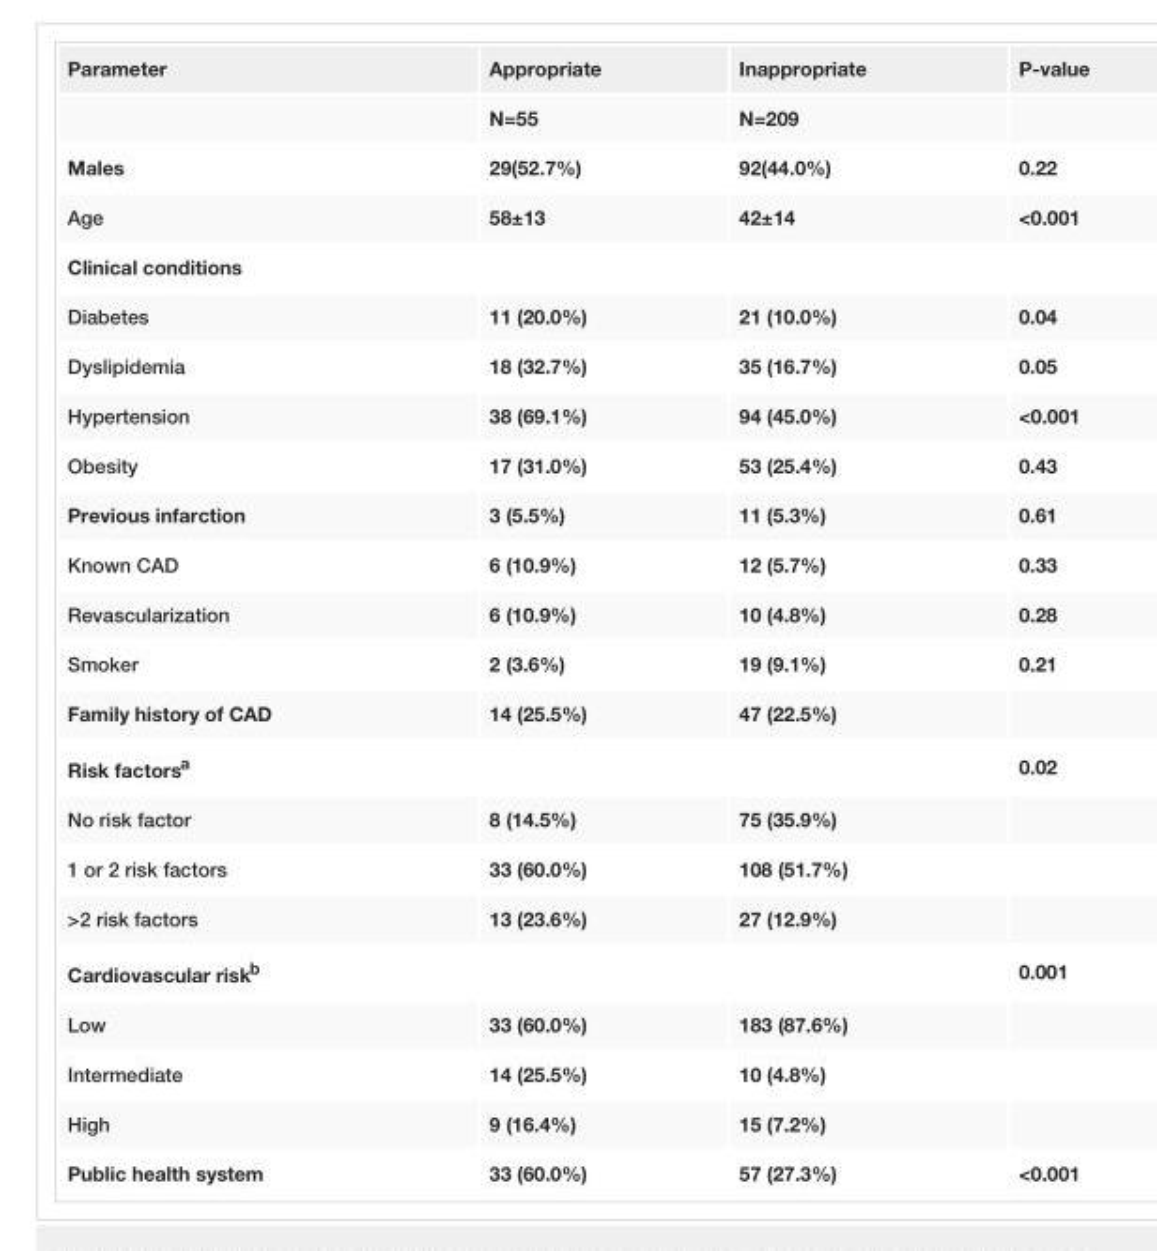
<table><tbody><tr><td rowspan="2">Parameter</td><td>Appropriate</td><td>Inappropriate</td><td>P-value</td></tr><tr><td>N=55</td><td>N=209</td><td></td></tr><tr><td>Males</td><td>29(52.7%)</td><td>92(44.0%)</td><td>0.22</td></tr><tr><td>Age</td><td>58±13</td><td>42±14</td><td>&lt;0.001</td></tr><tr><td colspan="4">Clinical conditions</td></tr><tr><td>Diabetes</td><td>11 (20.0%)</td><td>21 (10.0%)</td><td>0.04</td></tr><tr><td>Dyslipidemia</td><td>18 (32.7%)</td><td>35 (16.7%)</td><td>0.05</td></tr><tr><td>Hypertension</td><td>38 (69.1%)</td><td>94 (45.0%)</td><td>&lt;0.001</td></tr><tr><td>Obesity</td><td>17 (31.0%)</td><td>53 (25.4%)</td><td>0.43</td></tr><tr><td>Previous infarction</td><td>3 (5.5%)</td><td>11 (5.3%)</td><td>0.61</td></tr><tr><td>Known CAD</td><td>6 (10.9%)</td><td>12 (5.7%)</td><td>0.33</td></tr><tr><td>Revascularization</td><td>6 (10.9%)</td><td>10 (4.8%)</td><td>0.28</td></tr><tr><td>Smoker</td><td>2 (3.6%)</td><td>19 (9.1%)</td><td>0.21</td></tr><tr><td>Family history of CAD</td><td>14 (25.5%)</td><td>47 (22.5%)</td><td></td></tr><tr><td>Risk factors<sup>a</sup></td><td></td><td></td><td>0.02</td></tr><tr><td>No risk factor</td><td>8 (14.5%)</td><td>75 (35.9%)</td><td></td></tr><tr><td>1 or 2 risk factors</td><td>33 (60.0%)</td><td>108 (51.7%)</td><td></td></tr><tr><td>&gt;2 risk factors</td><td>13 (23.6%)</td><td>27 (12.9%)</td><td></td></tr><tr><td>Cardiovascular risk<sup>b</sup></td><td></td><td></td><td>0.001</td></tr><tr><td>Low</td><td>33 (60.0%)</td><td>183 (87.6%)</td><td></td></tr><tr><td>Intermediate</td><td>14 (25.5%)</td><td>10 (4.8%)</td><td></td></tr><tr><td>High</td><td>9 (16.4%)</td><td>15 (7.2%)</td><td></td></tr><tr><td>Public health system</td><td>33 (60.0%)</td><td>57 (27.3%)</td><td>&lt;0.001</td></tr></tbody></table>